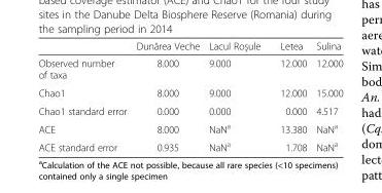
<table><thead><tr><td></td><td>Dunărea Veche</td><td>Lacul Roșule</td><td>Letea</td><td>Sulina</td></tr></thead><tbody><tr><td>Observed number of taxa</td><td>8.000</td><td>9.000</td><td>12.000</td><td>12.000</td></tr><tr><td>Chao1</td><td>8.000</td><td>9.000</td><td>12.000</td><td>15.000</td></tr><tr><td>Chao1 standard error</td><td>0.000</td><td>0.000</td><td>0.000</td><td>4.517</td></tr><tr><td>ACE</td><td>8.000</td><td>NaN<sup>a</sup></td><td>13.380</td><td>NaN<sup>a</sup></td></tr><tr><td>ACE standard error</td><td>0.935</td><td>NaN<sup>a</sup></td><td>1.708</td><td>NaN<sup>a</sup></td></tr></tbody></table>